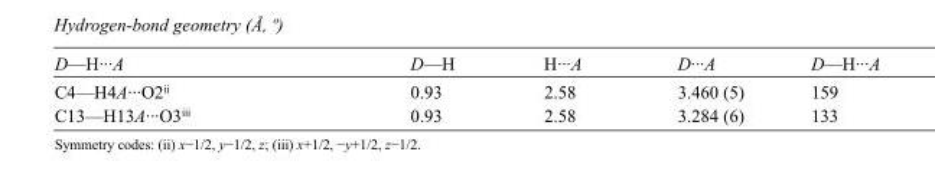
<table><tbody><tr><td>D—H···A</td><td>D—H</td><td>H···A</td><td>D···A</td><td>D—H···A</td></tr><tr><td>C4—H4A···O2<sup>ii</sup></td><td>0.93</td><td>2.58</td><td>3.460 (5)</td><td>159</td></tr><tr><td>C13—H13A···O3<sup>iii</sup></td><td>0.93</td><td>2.58</td><td>3.284 (6)</td><td>133</td></tr></tbody></table>